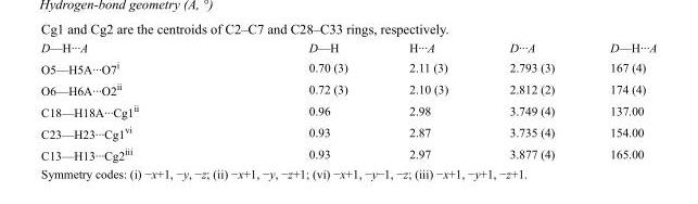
<table><tbody><tr><td>D—H···A</td><td>D—H</td><td>H···A</td><td>D···A</td><td>D—H···A</td></tr><tr><td>O5—H5A···O7<sup>i</sup></td><td>0.70 (3)</td><td>2.11 (3)</td><td>2.793 (3)</td><td>167 (4)</td></tr><tr><td>O6—H6A···O2<sup>ii</sup></td><td>0.72 (3)</td><td>2.10 (3)</td><td>2.812 (2)</td><td>174 (4)</td></tr><tr><td>C18—H18A···Cg1<sup>ii</sup></td><td>0.96</td><td>2.98</td><td>3.749 (4)</td><td>137.00</td></tr><tr><td>C23—H23···Cg1<sup>vi</sup></td><td>0.93</td><td>2.87</td><td>3.735 (4)</td><td>154.00</td></tr><tr><td>C13—H13···Cg2<sup>iii</sup></td><td>0.93</td><td>2.97</td><td>3.877 (4)</td><td>165.00</td></tr></tbody></table>